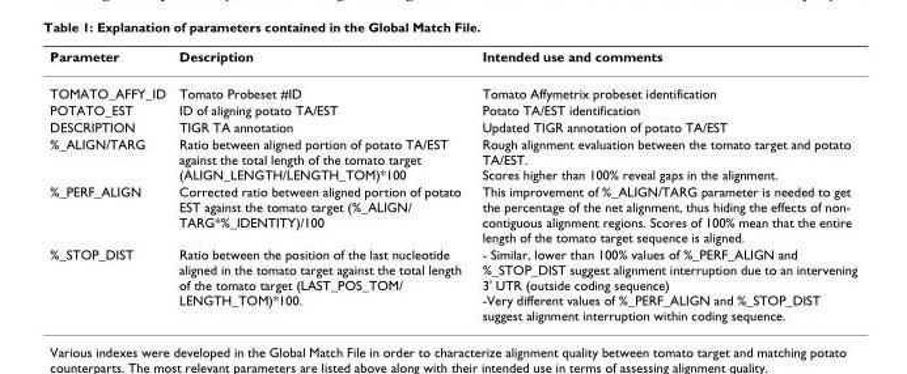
<table><thead><tr><td>Parameter</td><td>Description</td><td>Intended use and comments</td></tr></thead><tbody><tr><td>TOMATO_AFFY_ID</td><td>Tomato Probeset #ID</td><td>Tomato Affymetrix probeset identification</td></tr><tr><td>POTATO_EST</td><td>ID of aligning potato TA/EST</td><td>Potato TA/EST identification</td></tr><tr><td>DESCRIPTION</td><td>TIGR TA annotation</td><td>Updated TIGR annotation of potato TA/EST</td></tr><tr><td>%_ALIGN/TARG</td><td>Ratio between aligned portion of potato TA/EST against the total length of the tomato target (ALIGN_LENGTH/LENGTH_TOM)*100</td><td>Rough alignment evaluation between the tomato target and potato TA/EST. Scores higher than 100% reveal gaps in the alignment.</td></tr><tr><td>%_PERF_ALIGN</td><td>Corrected ratio between aligned portion of potato EST against the tomato target (%_ALIGN/ TARG*%_IDENTITY)/100</td><td>This improvement of %_ALIGN/TARG parameter is needed to get the percentage of the net alignment, thus hiding the effects of non- contiguous alignment regions. Scores of 100% mean that the entire length of the tomato target sequence is aligned.</td></tr><tr><td>%_STOP_DIST</td><td>Ratio between the position of the last nucleotide aligned in the tomato target against the total length of the tomato target (LAST_POS_TOM/ LENGTH_TOM)*100.</td><td>- Similar, lower than 100% values of %_PERF_ALIGN and %_STOP_DIST suggest alignment interruption due to an intervening 3&#x27; UTR (outside coding sequence) -Very different values of %_PERF_ALIGN and %_STOP_DIST suggest alignment interruption within coding sequence.</td></tr></tbody></table>